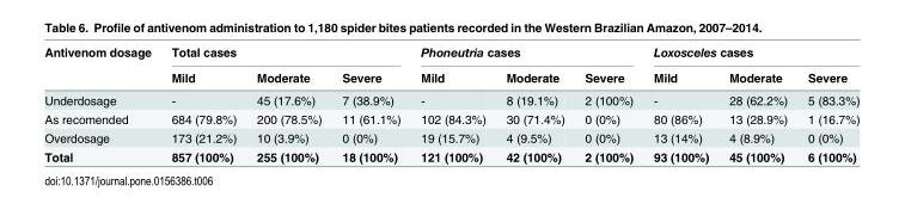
<table><thead><tr><td rowspan="2">Antivenom dosage</td><td colspan="3">Total cases</td><td colspan="3">Phoneutria cases</td><td colspan="3">Loxosceles cases</td></tr><tr><td>Mild</td><td>Moderate</td><td>Severe</td><td>Mild</td><td>Moderate</td><td>Severe</td><td>Mild</td><td>Moderate</td><td>Severe</td></tr></thead><tbody><tr><td>Underdosage</td><td>-</td><td>45 (17.6%)</td><td>7 (38.9%)</td><td>-</td><td>8 (19.1%)</td><td>2 (100%)</td><td>-</td><td>28 (62.2%)</td><td>5 (83.3%)</td></tr><tr><td>As recomended</td><td>684 (79.8%)</td><td>200 (78.5%)</td><td>11 (61.1%)</td><td>102 (84.3%)</td><td>30 (71.4%)</td><td>0 (0%)</td><td>80 (86%)</td><td>13 (28.9%)</td><td>1 (16.7%)</td></tr><tr><td>Overdosage</td><td>173 (21.2%)</td><td>10 (3.9%)</td><td>0 (0%)</td><td>19 (15.7%)</td><td>4 (9.5%)</td><td>0 (0%)</td><td>13 (14%)</td><td>4 (8.9%)</td><td>0 (0%)</td></tr><tr><td>Total</td><td>857 (100%)</td><td>255 (100%)</td><td>18 (100%)</td><td>121 (100%)</td><td>42 (100%)</td><td>2 (100%)</td><td>93 (100%)</td><td>45 (100%)</td><td>6 (100%)</td></tr></tbody></table>